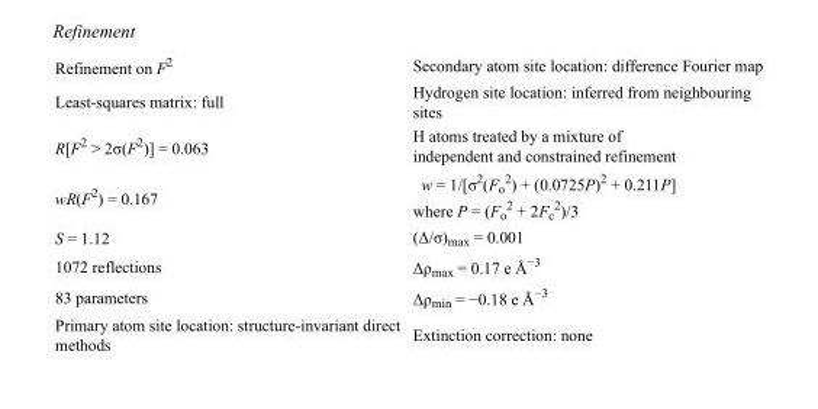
<table><tbody><tr><td>Refinement on F<sup>2</sup></td><td>Secondary atom site location: difference Fourier map</td></tr><tr><td>Least-squares matrix: full</td><td>Hydrogen site location: inferred from neighbouring sites</td></tr><tr><td>R[F<sup>2</sup> &gt; 2σ(F<sup>2</sup>)] = 0.063</td><td>H atoms treated by a mixture of independent and constrained refinement</td></tr><tr><td>wR(F<sup>2</sup>) = 0.167</td><td>w = 1/[σ<sup>2</sup>(F<sub>o</sub> <sup>2</sup>) + (0.0725P)<sup>2</sup> + 0.211P] where P = (F<sub>o</sub> <sup>2</sup> + 2F<sub>c</sub> <sup>2</sup>)/3</td></tr><tr><td>S = 1.12</td><td>(Δ/σ)<sub>max</sub> = 0.001</td></tr><tr><td>1072 reflections</td><td>Δρ<sub>max</sub> = 0.17 e Å<sup>−3</sup></td></tr><tr><td>83 parameters</td><td>Δρ<sub>min</sub> = −0.18 e Å<sup>−3</sup></td></tr><tr><td>Primary atom site location: structure-invariant direct methods</td><td>Extinction correction: none</td></tr></tbody></table>